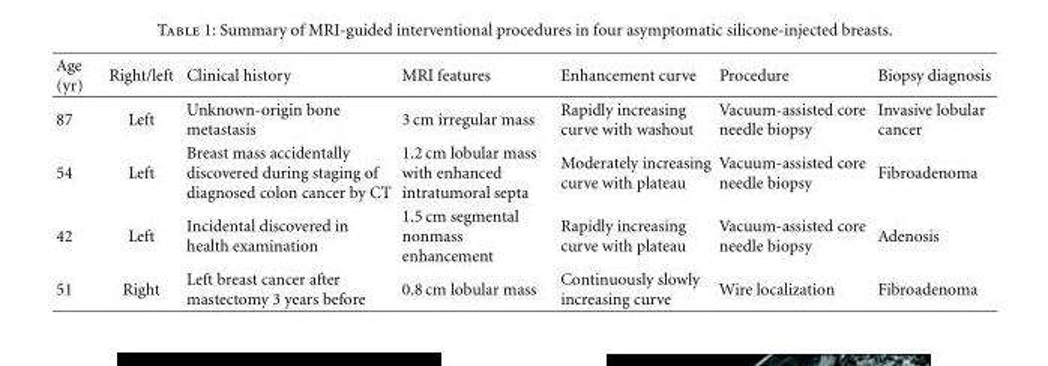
<table><thead><tr><td>Age (yr)</td><td>Right/left</td><td>Clinical history</td><td>MRI features</td><td>Enhancement curve</td><td>Procedure</td><td>Biopsy diagnosis</td></tr></thead><tbody><tr><td>87</td><td>Left</td><td>Unknown-origin bone metastasis</td><td>3 cm irregular mass</td><td>Rapidly increasing curve with washout</td><td>Vacuum-assisted core needle biopsy</td><td>Invasive lobular cancer</td></tr><tr><td>54</td><td>Left</td><td>Breast mass accidentally discovered during staging of diagnosed colon cancer by CT</td><td>1.2 cm lobular mass with enhanced intratumoral septa</td><td>Moderately increasing curve with plateau</td><td>Vacuum-assisted core needle biopsy</td><td>Fibroadenoma</td></tr><tr><td>42</td><td>Left</td><td>Incidental discovered in health examination</td><td>1.5 cm segmental nonmass enhancement</td><td>Rapidly increasing curve with plateau</td><td>Vacuum-assisted core needle biopsy</td><td>Adenosis</td></tr><tr><td>51</td><td>Right</td><td>Left breast cancer after mastectomy 3 years before</td><td>0.8 cm lobular mass</td><td>Continuously slowly increasing curve</td><td>Wire localization</td><td>Fibroadenoma</td></tr></tbody></table>